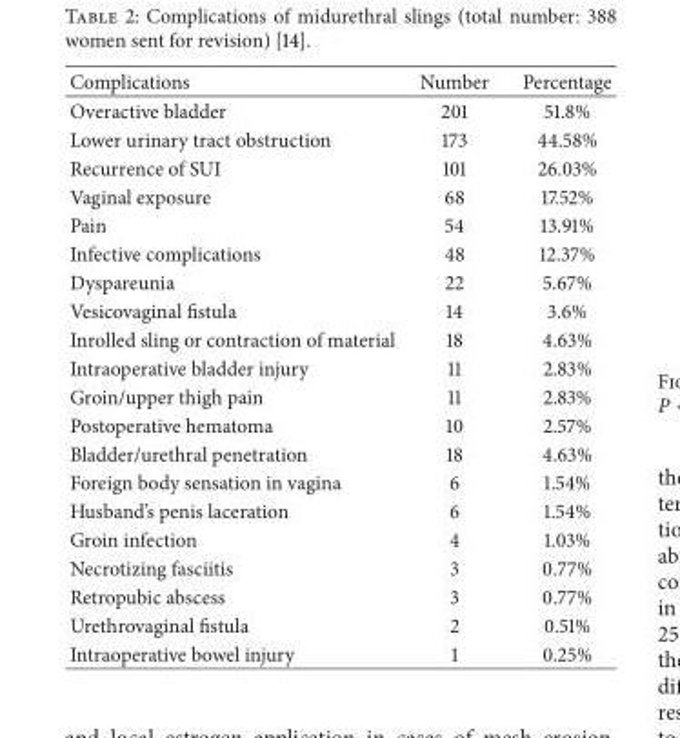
<table><thead><tr><td>Complications</td><td>Number</td><td>Percentage</td></tr></thead><tbody><tr><td>Overactive bladder</td><td>201</td><td>51.8%</td></tr><tr><td>Lower urinary tract obstruction</td><td>173</td><td>44.58%</td></tr><tr><td>Recurrence of SUI</td><td>101</td><td>26.03%</td></tr><tr><td>Vaginal exposure</td><td>68</td><td>17.52%</td></tr><tr><td>Pain</td><td>54</td><td>13.91%</td></tr><tr><td>Infective complications</td><td>48</td><td>12.37%</td></tr><tr><td>Dyspareunia</td><td>22</td><td>5.67%</td></tr><tr><td>Vesicovaginal fistula</td><td>14</td><td>3.6%</td></tr><tr><td>Inrolled sling or contraction of material</td><td>18</td><td>4.63%</td></tr><tr><td>Intraoperative bladder injury</td><td>11</td><td>2.83%</td></tr><tr><td>Groin/upper thigh pain</td><td>11</td><td>2.83%</td></tr><tr><td>Postoperative hematoma</td><td>10</td><td>2.57%</td></tr><tr><td>Bladder/urethral penetration</td><td>18</td><td>4.63%</td></tr><tr><td>Foreign body sensation in vagina</td><td>6</td><td>1.54%</td></tr><tr><td>Husband’s penis laceration</td><td>6</td><td>1.54%</td></tr><tr><td>Groin infection</td><td>4</td><td>1.03%</td></tr><tr><td>Necrotizing fasciitis</td><td>3</td><td>0.77%</td></tr><tr><td>Retropubic abscess</td><td>3</td><td>0.77%</td></tr><tr><td>Urethrovaginal fistula</td><td>2</td><td>0.51%</td></tr><tr><td>Intraoperative bowel injury</td><td>1</td><td>0.25%</td></tr></tbody></table>